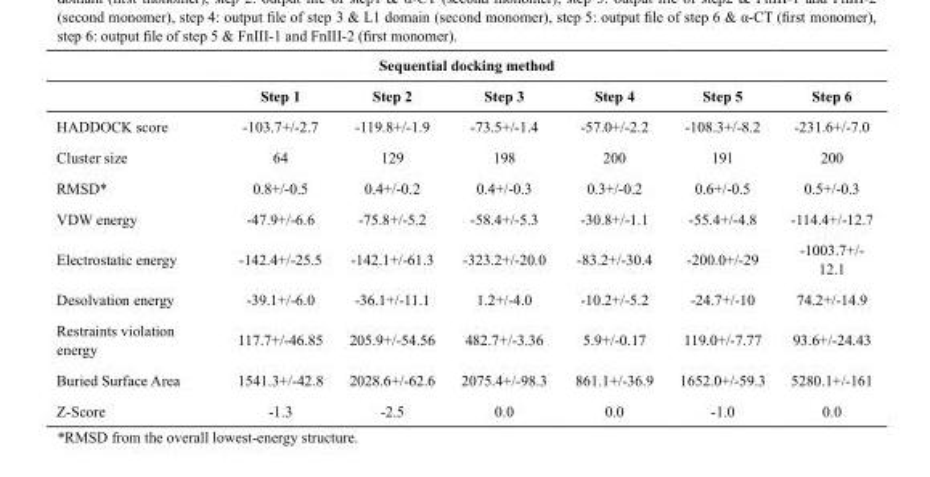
<table><thead><tr><td colspan="7">Sequential docking method</td></tr><tr><td></td><td>Step 1</td><td>Step 2</td><td>Step 3</td><td>Step 4</td><td>Step 5</td><td>Step 6</td></tr></thead><tbody><tr><td>HADDOCK score</td><td>-103.7+/-2.7</td><td>-119.8+/-1.9</td><td>-73.5+/-1.4</td><td>-57.0+/-2.2</td><td>-108.3+/-8.2</td><td>-231.6+/-7.0</td></tr><tr><td>Cluster size</td><td>64</td><td>129</td><td>198</td><td>200</td><td>191</td><td>200</td></tr><tr><td>RMSD*</td><td>0.8+/-0.5</td><td>0.4+/-0.2</td><td>0.4+/-0.3</td><td>0.3+/-0.2</td><td>0.6+/-0.5</td><td>0.5+/-0.3</td></tr><tr><td>VDW energy</td><td>-47.9+/-6.6</td><td>-75.8+/-5.2</td><td>-58.4+/-5.3</td><td>-30.8+/-1.1</td><td>-55.4+/-4.8</td><td>-114.4+/-12.7</td></tr><tr><td>Electrostatic energy</td><td>-142.4+/-25.5</td><td>-142.1+/-61.3</td><td>-323.2+/-20.0</td><td>-83.2+/-30.4</td><td>-200.0+/-29</td><td>-1003.7+/- 12.1</td></tr><tr><td>Desolvation energy</td><td>-39.1+/-6.0</td><td>-36.1+/-11.1</td><td>1.2+/-4.0</td><td>-10.2+/-5.2</td><td>-24.7+/-10</td><td>74.2+/-14.9</td></tr><tr><td>Restraints violation energy</td><td>117.7+/-46.85</td><td>205.9+/-54.56</td><td>482.7+/-3.36</td><td>5.9+/-0.17</td><td>119.0+/-7.77</td><td>93.6+/-24.43</td></tr><tr><td>Buried Surface Area</td><td>1541.3+/-42.8</td><td>2028.6+/-62.6</td><td>2075.4+/-98.3</td><td>861.1+/-36.9</td><td>1652.0+/-59.3</td><td>5280.1+/-161</td></tr><tr><td>Z-Score</td><td>-1.3</td><td>-2.5</td><td>0.0</td><td>0.0</td><td>-1.0</td><td>0.0</td></tr></tbody></table>